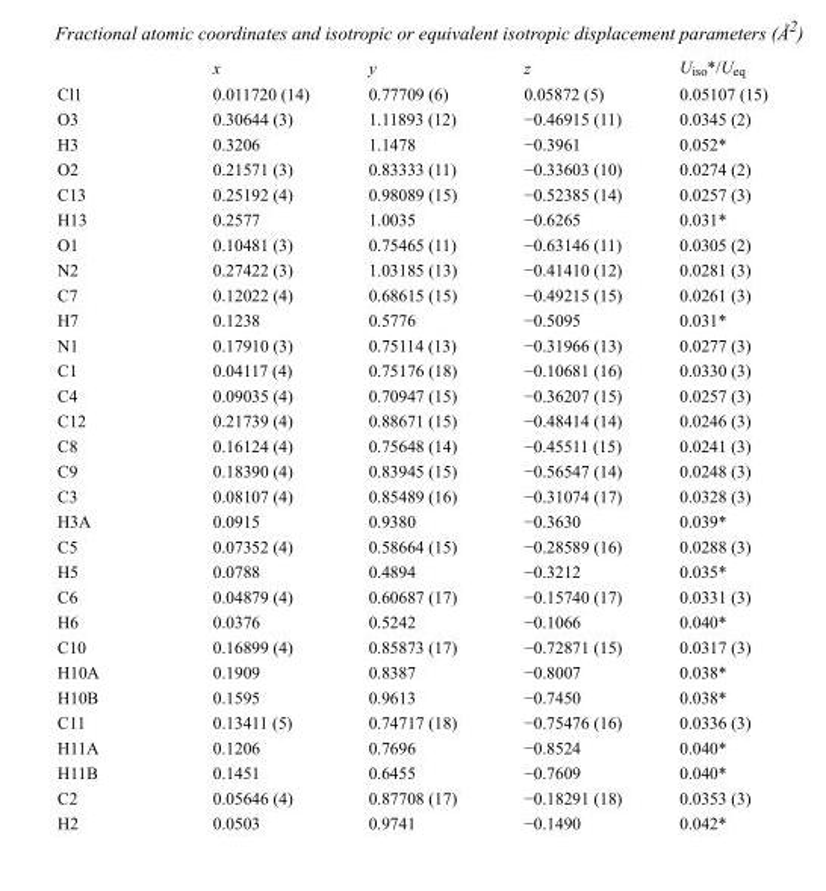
<table><thead><tr><td></td><td>x</td><td>y</td><td>z</td><td>U<sub>iso</sub>*/U<sub>eq</sub></td></tr></thead><tbody><tr><td>Cl1</td><td>0.011720 (14)</td><td>0.77709 (6)</td><td>0.05872 (5)</td><td>0.05107 (15)</td></tr><tr><td>O3</td><td>0.30644 (3)</td><td>1.11893 (12)</td><td>−0.46915 (11)</td><td>0.0345 (2)</td></tr><tr><td>H3</td><td>0.3206</td><td>1.1478</td><td>−0.3961</td><td>0.052*</td></tr><tr><td>O2</td><td>0.21571 (3)</td><td>0.83333 (11)</td><td>−0.33603 (10)</td><td>0.0274 (2)</td></tr><tr><td>C13</td><td>0.25192 (4)</td><td>0.98089 (15)</td><td>−0.52385 (14)</td><td>0.0257 (3)</td></tr><tr><td>H13</td><td>0.2577</td><td>1.0035</td><td>−0.6265</td><td>0.031*</td></tr><tr><td>O1</td><td>0.10481 (3)</td><td>0.75465 (11)</td><td>−0.63146 (11)</td><td>0.0305 (2)</td></tr><tr><td>N2</td><td>0.27422 (3)</td><td>1.03185 (13)</td><td>−0.41410 (12)</td><td>0.0281 (3)</td></tr><tr><td>C7</td><td>0.12022 (4)</td><td>0.68615 (15)</td><td>−0.49215 (15)</td><td>0.0261 (3)</td></tr><tr><td>H7</td><td>0.1238</td><td>0.5776</td><td>−0.5095</td><td>0.031*</td></tr><tr><td>N1</td><td>0.17910 (3)</td><td>0.75114 (13)</td><td>−0.31966 (13)</td><td>0.0277 (3)</td></tr><tr><td>C1</td><td>0.04117 (4)</td><td>0.75176 (18)</td><td>−0.10681 (16)</td><td>0.0330 (3)</td></tr><tr><td>C4</td><td>0.09035 (4)</td><td>0.70947 (15)</td><td>−0.36207 (15)</td><td>0.0257 (3)</td></tr><tr><td>C12</td><td>0.21739 (4)</td><td>0.88671 (15)</td><td>−0.48414 (14)</td><td>0.0246 (3)</td></tr><tr><td>C8</td><td>0.16124 (4)</td><td>0.75648 (14)</td><td>−0.45511 (15)</td><td>0.0241 (3)</td></tr><tr><td>C9</td><td>0.18390 (4)</td><td>0.83945 (15)</td><td>−0.56547 (14)</td><td>0.0248 (3)</td></tr><tr><td>C3</td><td>0.08107 (4)</td><td>0.85489 (16)</td><td>−0.31074 (17)</td><td>0.0328 (3)</td></tr><tr><td>H3A</td><td>0.0915</td><td>0.9380</td><td>−0.3630</td><td>0.039*</td></tr><tr><td>C5</td><td>0.07352 (4)</td><td>0.58664 (15)</td><td>−0.28589 (16)</td><td>0.0288 (3)</td></tr><tr><td>H5</td><td>0.0788</td><td>0.4894</td><td>−0.3212</td><td>0.035*</td></tr><tr><td>C6</td><td>0.04879 (4)</td><td>0.60687 (17)</td><td>−0.15740 (17)</td><td>0.0331 (3)</td></tr><tr><td>H6</td><td>0.0376</td><td>0.5242</td><td>−0.1066</td><td>0.040*</td></tr><tr><td>C10</td><td>0.16899 (4)</td><td>0.85873 (17)</td><td>−0.72871 (15)</td><td>0.0317 (3)</td></tr><tr><td>H10A</td><td>0.1909</td><td>0.8387</td><td>−0.8007</td><td>0.038*</td></tr><tr><td>H10B</td><td>0.1595</td><td>0.9613</td><td>−0.7450</td><td>0.038*</td></tr><tr><td>C11</td><td>0.13411 (5)</td><td>0.74717 (18)</td><td>−0.75476 (16)</td><td>0.0336 (3)</td></tr><tr><td>H11A</td><td>0.1206</td><td>0.7696</td><td>−0.8524</td><td>0.040*</td></tr><tr><td>H11B</td><td>0.1451</td><td>0.6455</td><td>−0.7609</td><td>0.040*</td></tr><tr><td>C2</td><td>0.05646 (4)</td><td>0.87708 (17)</td><td>−0.18291 (18)</td><td>0.0353 (3)</td></tr><tr><td>H2</td><td>0.0503</td><td>0.9741</td><td>−0.1490</td><td>0.042*</td></tr></tbody></table>